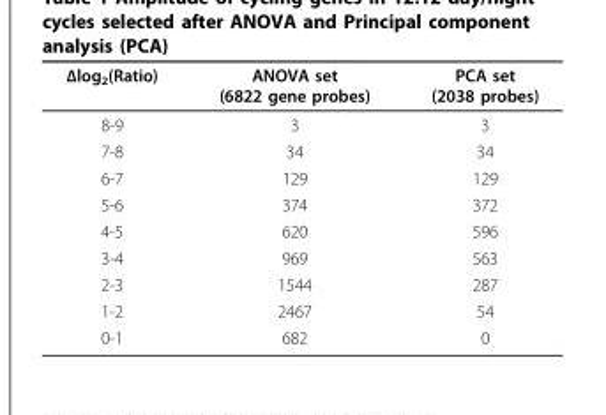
<table><thead><tr><td>Δlog<sub>2</sub>(Ratio)</td><td>ANOVA set (6822 gene probes)</td><td>PCA set (2038 probes)</td></tr></thead><tbody><tr><td>8-9</td><td>3</td><td>3</td></tr><tr><td>7-8</td><td>34</td><td>34</td></tr><tr><td>6-7</td><td>129</td><td>129</td></tr><tr><td>5-6</td><td>374</td><td>372</td></tr><tr><td>4-5</td><td>620</td><td>596</td></tr><tr><td>3-4</td><td>969</td><td>563</td></tr><tr><td>2-3</td><td>1544</td><td>287</td></tr><tr><td>1-2</td><td>2467</td><td>54</td></tr><tr><td>0-1</td><td>682</td><td>0</td></tr></tbody></table>